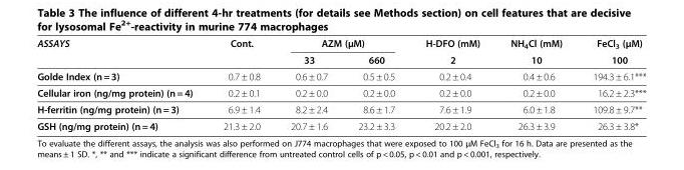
<table><thead><tr><td rowspan="2">ASSAYS</td><td rowspan="2">Cont.</td><td colspan="2">AZM (μM)</td><td rowspan="2">H-DFO (mM) 2</td><td rowspan="2">NH<sub>4</sub>Cl (mM) 10</td><td rowspan="2">FeCl<sub>3</sub> (μM) 100</td></tr><tr><td>33</td><td>660</td></tr></thead><tbody><tr><td>Golde Index (n = 3)</td><td>0.7 ± 0.8</td><td>0.6 ± 0.7</td><td>0.5 ± 0.5</td><td>0.2 ± 0.4</td><td>0.4 ± 0.6</td><td>194.3 ± 6.1***</td></tr><tr><td>Cellular iron (ng/mg protein) (n = 4)</td><td>0.2 ± 0.1</td><td>0.2 ± 0.0</td><td>0.2 ± 0.0</td><td>0.2 ± 0.0</td><td>0.2 ± 0.0</td><td>16.2 ± 2.3***</td></tr><tr><td>H-ferritin (ng/mg protein) (n = 3)</td><td>6.9 ± 1.4</td><td>8.2 ± 2.4</td><td>8.6 ± 1.7</td><td>7.6 ± 1.9</td><td>6.0 ± 1.8</td><td>109.8 ± 9.7**</td></tr><tr><td>GSH (ng/mg protein) (n = 4)</td><td>21.3 ± 2.0</td><td>20.7 ± 1.6</td><td>23.2 ± 3.3</td><td>20.2 ± 2.0</td><td>26.3 ± 3.9</td><td>26.3 ± 3.8*</td></tr></tbody></table>